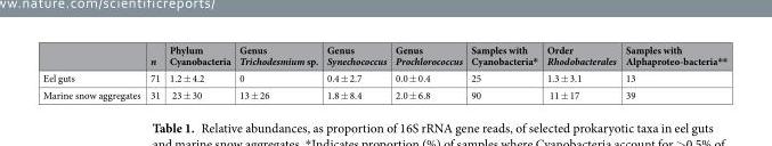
<table><thead><tr><td></td><td>n</td><td>Phylum Cyanobacteria</td><td>Genus Trichodesmium sp.</td><td>Genus Synechococcus</td><td>Genus Prochlorococcus</td><td>Samples with Cyanobacteria*</td><td>Order Rhodobacterales</td><td>Samples with Alphaproteo-bacteria**</td></tr></thead><tbody><tr><td>Eel guts</td><td>71</td><td>1.2 ± 4.2</td><td>0</td><td>0.4 ± 2.7</td><td>0.0 ± 0.4</td><td>25</td><td>1.3 ± 3.1</td><td>13</td></tr><tr><td>Marine snow aggregates</td><td>31</td><td>23 ± 30</td><td>13 ± 26</td><td>1.8 ± 8.4</td><td>2.0 ± 6.8</td><td>90</td><td>11 ± 17</td><td>39</td></tr></tbody></table>